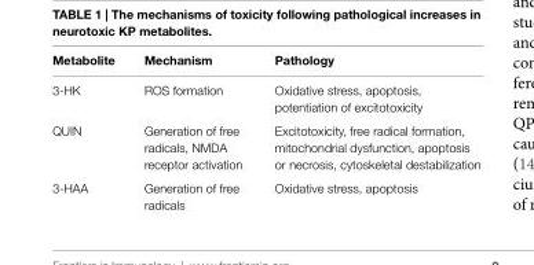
<table><thead><tr><td>Metabolite</td><td>Mechanism</td><td>Pathology</td></tr></thead><tbody><tr><td>3-HK</td><td>ROS formation</td><td>Oxidative stress, apoptosis, potentiation of excitotoxicity</td></tr><tr><td>QUIN</td><td>Generation of free radicals, NMDA receptor activation</td><td>Excitotoxicity, free radical formation, mitochondrial dysfunction, apoptosis or necrosis, cytoskeletal destabilization</td></tr><tr><td>3-HAA</td><td>Generation of free radicals</td><td>Oxidative stress, apoptosis</td></tr></tbody></table>